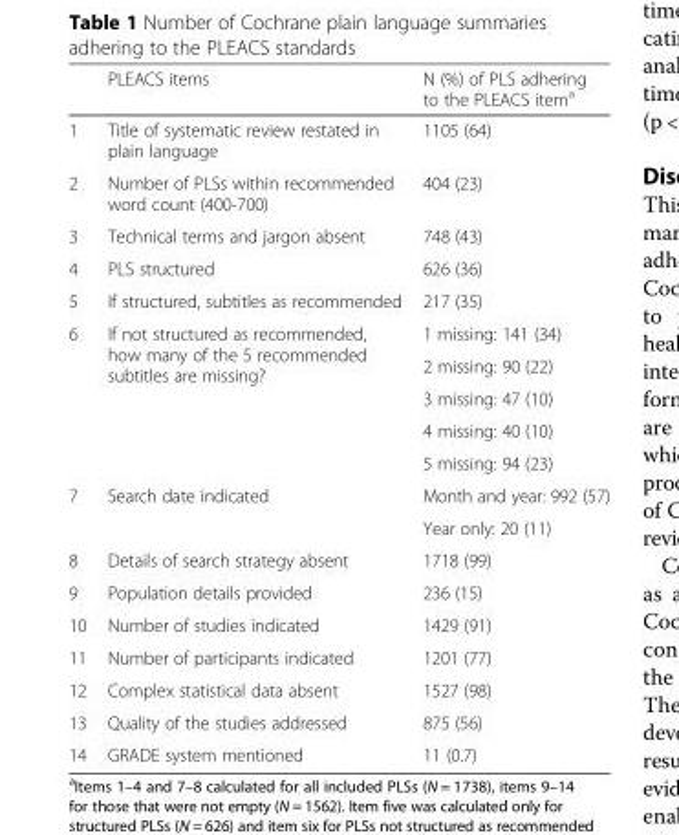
<table><thead><tr><td></td><td>PLEACS items</td><td>N (%) of PLS adhering to the PLEACS item<sup>a</sup></td></tr></thead><tbody><tr><td>1</td><td>Title of systematic review restated in plain language</td><td>1105 (64)</td></tr><tr><td>2</td><td>Number of PLSs within recommended word count (400-700)</td><td>404 (23)</td></tr><tr><td>3</td><td>Technical terms and jargon absent</td><td>748 (43)</td></tr><tr><td>4</td><td>PLS structured</td><td>626 (36)</td></tr><tr><td>5</td><td>If structured, subtitles as recommended</td><td>217 (35)</td></tr><tr><td rowspan="5">6</td><td rowspan="5">If not structured as recommended, how many of the 5 recommended subtitles are missing?</td><td>1 missing: 141 (34)</td></tr><tr><td>2 missing: 90 (22)</td></tr><tr><td>3 missing: 47 (10)</td></tr><tr><td>4 missing: 40 (10)</td></tr><tr><td>5 missing: 94 (23)</td></tr><tr><td rowspan="2">7</td><td rowspan="2">Search date indicated</td><td>Month and year: 992 (57)</td></tr><tr><td>Year only: 20 (11)</td></tr><tr><td>8</td><td>Details of search strategy absent</td><td>1718 (99)</td></tr><tr><td>9</td><td>Population details provided</td><td>236 (15)</td></tr><tr><td>10</td><td>Number of studies indicated</td><td>1429 (91)</td></tr><tr><td>11</td><td>Number of participants indicated</td><td>1201 (77)</td></tr><tr><td>12</td><td>Complex statistical data absent</td><td>1527 (98)</td></tr><tr><td>13</td><td>Quality of the studies addressed</td><td>875 (56)</td></tr><tr><td>14</td><td>GRADE system mentioned</td><td>11 (0.7)</td></tr></tbody></table>